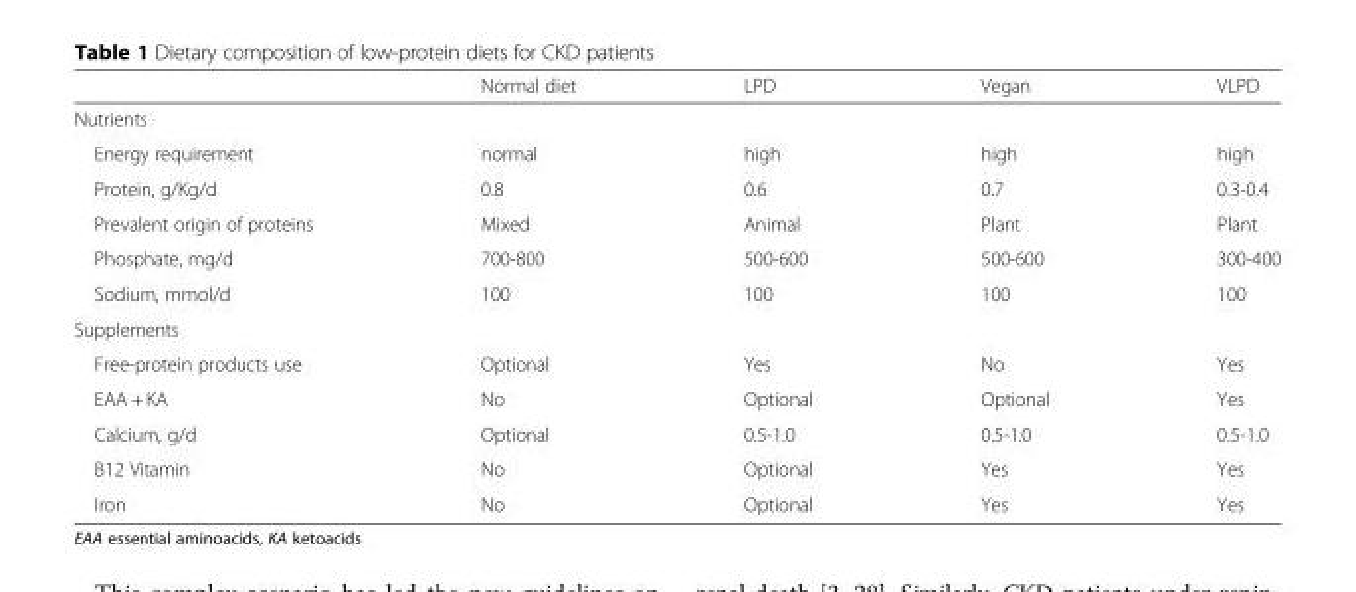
<table><thead><tr><td></td><td>Normal diet</td><td>LPD</td><td>Vegan</td><td>VLPD</td></tr></thead><tbody><tr><td colspan="5">Nutrients</td></tr><tr><td>Energy requirement</td><td>normal</td><td>high</td><td>high</td><td>high</td></tr><tr><td>Protein, g/Kg/d</td><td>0.8</td><td>0.6</td><td>0.7</td><td>0.3-0.4</td></tr><tr><td>Prevalent origin of proteins</td><td>Mixed</td><td>Animal</td><td>Plant</td><td>Plant</td></tr><tr><td>Phosphate, mg/d</td><td>700-800</td><td>500-600</td><td>500-600</td><td>300-400</td></tr><tr><td>Sodium, mmol/d</td><td>100</td><td>100</td><td>100</td><td>100</td></tr><tr><td colspan="5">Supplements</td></tr><tr><td>Free-protein products use</td><td>Optional</td><td>Yes</td><td>No</td><td>Yes</td></tr><tr><td>EAA + KA</td><td>No</td><td>Optional</td><td>Optional</td><td>Yes</td></tr><tr><td>Calcium, g/d</td><td>Optional</td><td>0.5-1.0</td><td>0.5-1.0</td><td>0.5-1.0</td></tr><tr><td>B12 Vitamin</td><td>No</td><td>Optional</td><td>Yes</td><td>Yes</td></tr><tr><td>Iron</td><td>No</td><td>Optional</td><td>Yes</td><td>Yes</td></tr></tbody></table>